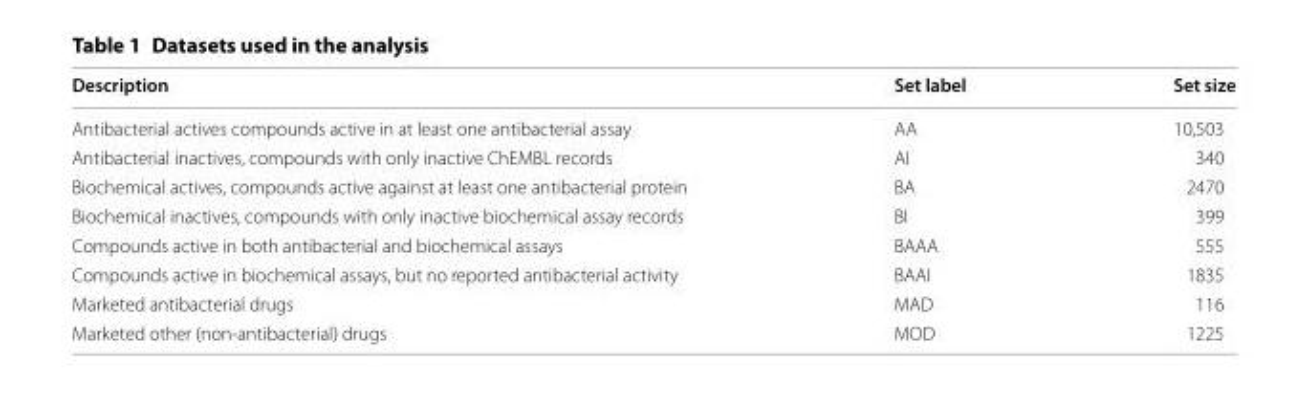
<table><thead><tr><td>Description</td><td>Set label</td><td>Set size</td></tr></thead><tbody><tr><td>Antibacterial actives compounds active in at least one antibacterial assay</td><td>AA</td><td>10,503</td></tr><tr><td>Antibacterial inactives, compounds with only inactive ChEMBL records</td><td>AI</td><td>340</td></tr><tr><td>Biochemical actives, compounds active against at least one antibacterial protein</td><td>BA</td><td>2470</td></tr><tr><td>Biochemical inactives, compounds with only inactive biochemical assay records</td><td>BI</td><td>399</td></tr><tr><td>Compounds active in both antibacterial and biochemical assays</td><td>BAAA</td><td>555</td></tr><tr><td>Compounds active in biochemical assays, but no reported antibacterial activity</td><td>BAAI</td><td>1835</td></tr><tr><td>Marketed antibacterial drugs</td><td>MAD</td><td>116</td></tr><tr><td>Marketed other (non‑antibacterial) drugs</td><td>MOD</td><td>1225</td></tr></tbody></table>